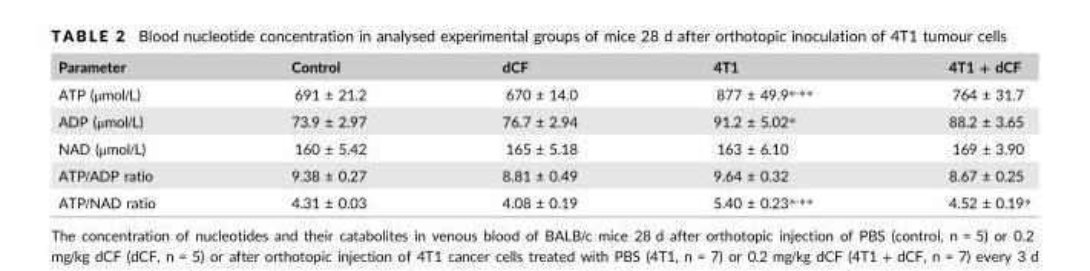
<table><thead><tr><td>Parameter</td><td>Control</td><td>dCF</td><td>4T1</td><td>4T1 + dCF</td></tr></thead><tbody><tr><td>ATP (μmol/L)</td><td>691 ± 21.2</td><td>670 ± 14.0</td><td>877 ± 49.9*<sup>,</sup>**</td><td>764 ± 31.7</td></tr><tr><td>ADP (μmol/L)</td><td>73.9 ± 2.97</td><td>76.7 ± 2.94</td><td>91.2 ± 5.02*</td><td>88.2 ± 3.65</td></tr><tr><td>NAD (μmol/L)</td><td>160 ± 5.42</td><td>165 ± 5.18</td><td>163 ± 6.10</td><td>169 ± 3.90</td></tr><tr><td>ATP/ADP ratio</td><td>9.38 ± 0.27</td><td>8.81 ± 0.49</td><td>9.64 ± 0.32</td><td>8.67 ± 0.25</td></tr><tr><td>ATP/NAD ratio</td><td>4.31 ± 0.03</td><td>4.08 ± 0.19</td><td>5.40 ± 0.23*<sup>,</sup>**</td><td>4.52 ± 0.19*</td></tr></tbody></table>